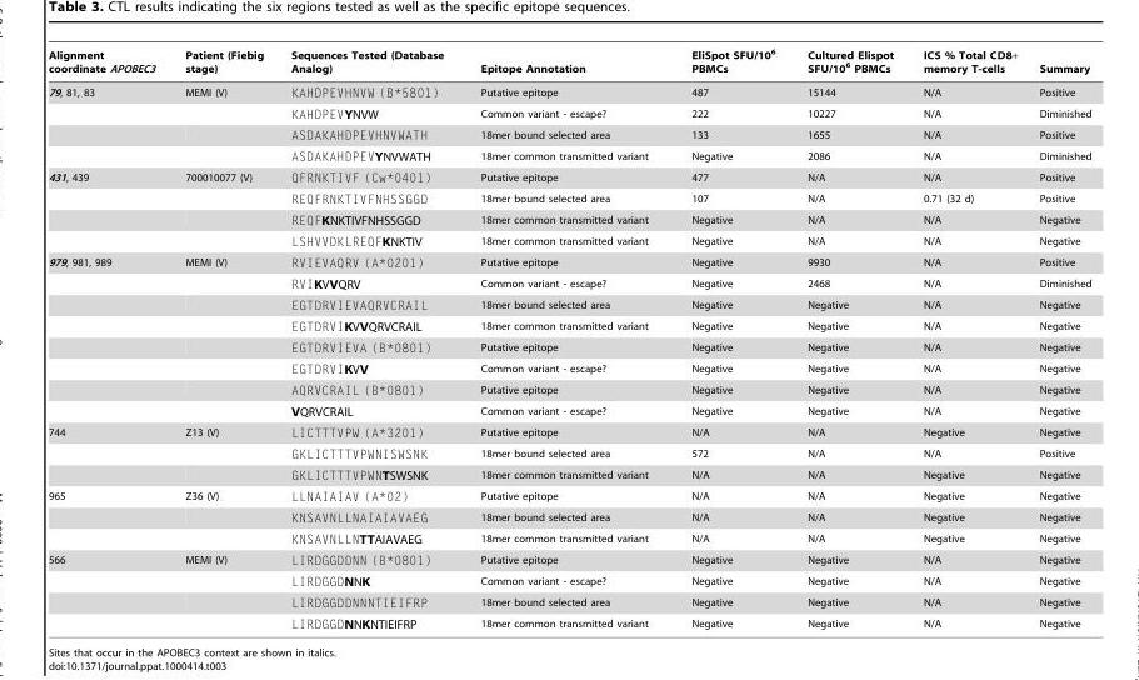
<table><thead><tr><td>Alignment coordinate APOBEC3</td><td>Patient (Fiebig stage)</td><td>Sequences Tested (Database Analog)</td><td>Epitope Annotation</td><td>EliSpot SFU/10<sup>6</sup> PBMCs</td><td>Cultured Elispot SFU/10<sup>6</sup> PBMCs</td><td>ICS % Total CD8+ memory T-cells</td><td>Summary</td></tr></thead><tbody><tr><td rowspan="4">79, 81, 83</td><td>MEMI (V)</td><td>KAHDPEVHNVW (B*5801)</td><td>Putative epitope</td><td>487</td><td>15144</td><td>N/A</td><td>Positive</td></tr><tr><td></td><td>KAHDPEVYNVW</td><td>Common variant - escape?</td><td>222</td><td>10227</td><td>N/A</td><td>Diminished</td></tr><tr><td></td><td>ASDAKAHDPEVHNVWATH</td><td>18mer bound selected area</td><td>133</td><td>1655</td><td>N/A</td><td>Positive</td></tr><tr><td></td><td>ASDAKAHDPEVYNVWATH</td><td>18mer common transmitted variant</td><td>Negative</td><td>2086</td><td>N/A</td><td>Diminished</td></tr><tr><td rowspan="4">431, 439</td><td>700010077 (V)</td><td>QFRNKTIVF (Cw*0401)</td><td>Putative epitope</td><td>477</td><td>N/A</td><td>N/A</td><td>Positive</td></tr><tr><td></td><td>REQFRNKTIVFNHSSGGD</td><td>18mer bound selected area</td><td>107</td><td>N/A</td><td>0.71 (32 d)</td><td>Positive</td></tr><tr><td></td><td>REQFKNKTIVFNHSSGGD</td><td>18mer common transmitted variant</td><td>Negative</td><td>N/A</td><td>N/A</td><td>Negative</td></tr><tr><td></td><td>LSHVVDKLREQFKNKTIV</td><td>18mer common transmitted variant</td><td>Negative</td><td>N/A</td><td>N/A</td><td>Negative</td></tr><tr><td rowspan="8">979, 981, 989</td><td>MEMI (V)</td><td>RVIEVAQRV (A*0201)</td><td>Putative epitope</td><td>Negative</td><td>9930</td><td>N/A</td><td>Positive</td></tr><tr><td></td><td>RVIKVVQRV</td><td>Common variant - escape?</td><td>Negative</td><td>2468</td><td>N/A</td><td>Diminished</td></tr><tr><td></td><td>EGTDRVIEVAQRVCRAIL</td><td>18mer bound selected area</td><td>Negative</td><td>Negative</td><td>N/A</td><td>Negative</td></tr><tr><td></td><td>EGTDRVIKVVQRVCRAIL</td><td>18mer common transmitted variant</td><td>Negative</td><td>Negative</td><td>N/A</td><td>Negative</td></tr><tr><td></td><td>EGTDRVIEVA (B*0801)</td><td>Putative epitope</td><td>Negative</td><td>Negative</td><td>N/A</td><td>Negative</td></tr><tr><td></td><td>EGTDRVIKVV</td><td>Common variant - escape?</td><td>Negative</td><td>Negative</td><td>N/A</td><td>Negative</td></tr><tr><td></td><td>AQRVCRAIL (B*0801)</td><td>Putative epitope</td><td>Negative</td><td>Negative</td><td>N/A</td><td>Negative</td></tr><tr><td></td><td>VQRVCRAIL</td><td>Common variant - escape?</td><td>Negative</td><td>Negative</td><td>N/A</td><td>Negative</td></tr><tr><td rowspan="3">744</td><td>Z13 (V)</td><td>LICTTTVPW (A*3201)</td><td>Putative epitope</td><td>N/A</td><td>N/A</td><td>Negative</td><td>Negative</td></tr><tr><td></td><td>GKLICTTTVPWNISWSNK</td><td>18mer bound selected area</td><td>572</td><td>N/A</td><td>N/A</td><td>Positive</td></tr><tr><td></td><td>GKLICTTTVPWNTSWSNK</td><td>18mer common transmitted variant</td><td>N/A</td><td>N/A</td><td>Negative</td><td>Negative</td></tr><tr><td rowspan="3">965</td><td>Z36 (V)</td><td>LLNAIAIAV (A*02)</td><td>Putative epitope</td><td>N/A</td><td>N/A</td><td>Negative</td><td>Negative</td></tr><tr><td></td><td>KNSAVNLLNAIAIAVAEG</td><td>18mer bound selected area</td><td>N/A</td><td>N/A</td><td>Negative</td><td>Negative</td></tr><tr><td></td><td>KNSAVNLLNTTAIAVAEG</td><td>18mer common transmitted variant</td><td>N/A</td><td>N/A</td><td>Negative</td><td>Negative</td></tr><tr><td rowspan="4">566</td><td>MEMI (V)</td><td>LIRDGGDDNN (B*0801)</td><td>Putative epitope</td><td>Negative</td><td>Negative</td><td>N/A</td><td>Negative</td></tr><tr><td></td><td>LIRDGGDNNK</td><td>Common variant - escape?</td><td>Negative</td><td>Negative</td><td>N/A</td><td>Negative</td></tr><tr><td></td><td>LIRDGGDDNNNTIEIFRP</td><td>18mer bound selected area</td><td>Negative</td><td>Negative</td><td>N/A</td><td>Negative</td></tr><tr><td></td><td>LIRDGGDNNKNTIEIFRP</td><td>18mer common transmitted variant</td><td>Negative</td><td>Negative</td><td>N/A</td><td>Negative</td></tr></tbody></table>